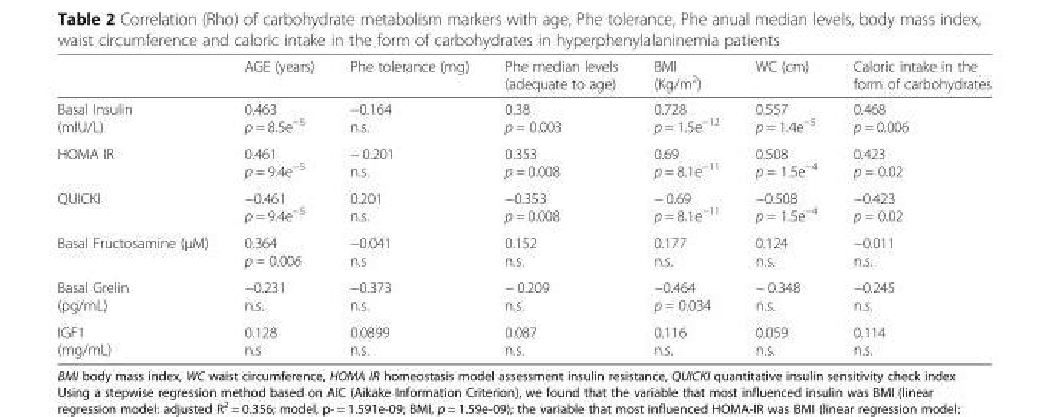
<table><thead><tr><td></td><td>AGE (years)</td><td>Phe tolerance (mg)</td><td>Phe median levels (adequate to age)</td><td>BMI (Kg/m<sup>2</sup>)</td><td>WC (cm)</td><td>Caloric intake in the form of carbohydrates</td></tr></thead><tbody><tr><td>Basal Insulin (mIU/L)</td><td>0.463 p = 8.5e<sup>−5</sup></td><td>−0.164 n.s.</td><td>0.38 p = 0.003</td><td>0.728 p = 1.5e<sup>−12</sup></td><td>0.557 p = 1.4e<sup>−5</sup></td><td>0.468 p = 0.006</td></tr><tr><td>HOMA IR</td><td>0.461 p = 9.4e<sup>−5</sup></td><td>− 0.201 n.s.</td><td>0.353 p = 0.008</td><td>0.69 p = 8.1e<sup>−11</sup></td><td>0.508 p = 1.5e<sup>−4</sup></td><td>0.423 p = 0.02</td></tr><tr><td>QUICKI</td><td>−0.461 p = 9.4e<sup>−5</sup></td><td>0.201 n.s.</td><td>−0.353 p = 0.008</td><td>− 0.69 p = 8.1e<sup>−11</sup></td><td>−0.508 p = 1.5e<sup>−4</sup></td><td>−0.423 p = 0.02</td></tr><tr><td>Basal Fructosamine (μM)</td><td>0.364 p = 0.006</td><td>−0.041 n.s</td><td>0.152 n.s.</td><td>0.177 n.s.</td><td>0.124 n.s.</td><td>−0.011 n.s.</td></tr><tr><td>Basal Grelin (pg/mL)</td><td>−0.231 n.s.</td><td>−0.373 n.s.</td><td>− 0.209 n.s.</td><td>−0.464 p = 0.034</td><td>− 0.348 n.s.</td><td>−0.245 n.s.</td></tr><tr><td>IGF1 (mg/mL)</td><td>0.128 n.s</td><td>0.0899 n.s.</td><td>0.087 n.s.</td><td>0.116 n.s.</td><td>0.059 n.s.</td><td>0.114 n.s.</td></tr></tbody></table>